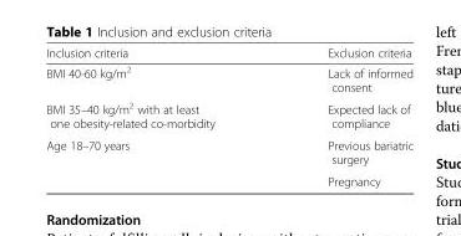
<table><thead><tr><td>Inclusion criteria</td><td>Exclusion criteria</td></tr></thead><tbody><tr><td>BMI 40-60 kg/m<sup>2</sup></td><td>Lack of informed consent</td></tr><tr><td>BMI 35–40 kg/m<sup>2</sup> with at least one obesity-related co-morbidity</td><td>Expected lack of compliance</td></tr><tr><td rowspan="2">Age 18–70 years</td><td>Previous bariatric surgery</td></tr><tr><td>Pregnancy</td></tr></tbody></table>